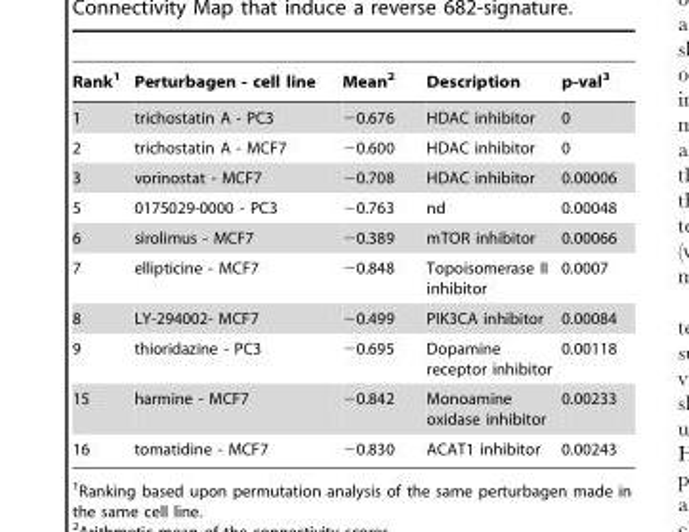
<table><thead><tr><td>Rank<sup>1</sup></td><td>Perturbagen - cell line</td><td>Mean<sup>2</sup></td><td>Description</td><td>p-val<sup>3</sup></td></tr></thead><tbody><tr><td>1</td><td>trichostatin A - PC3</td><td>−0.676</td><td>HDAC inhibitor</td><td>0</td></tr><tr><td>2</td><td>trichostatin A - MCF7</td><td>−0.600</td><td>HDAC inhibitor</td><td>0</td></tr><tr><td>3</td><td>vorinostat - MCF7</td><td>−0.708</td><td>HDAC inhibitor</td><td>0.00006</td></tr><tr><td>5</td><td>0175029-0000 - PC3</td><td>−0.763</td><td>nd</td><td>0.00048</td></tr><tr><td>6</td><td>sirolimus - MCF7</td><td>−0.389</td><td>mTOR inhibitor</td><td>0.00066</td></tr><tr><td>7</td><td>ellipticine - MCF7</td><td>−0.848</td><td>Topoisomerase II inhibitor</td><td>0.0007</td></tr><tr><td>8</td><td>LY-294002- MCF7</td><td>−0.499</td><td>PIK3CA inhibitor</td><td>0.00084</td></tr><tr><td>9</td><td>thioridazine - PC3</td><td>−0.695</td><td>Dopamine receptor inhibitor</td><td>0.00118</td></tr><tr><td>15</td><td>harmine - MCF7</td><td>−0.842</td><td>Monoamine oxidase inhibitor</td><td>0.00233</td></tr><tr><td>16</td><td>tomatidine - MCF7</td><td>−0.830</td><td>ACAT1 inhibitor</td><td>0.00243</td></tr></tbody></table>